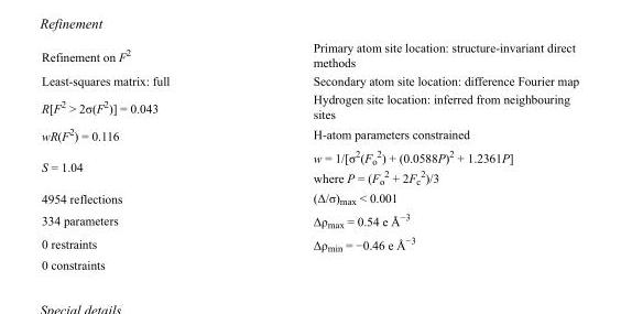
<table><tbody><tr><td>Refinement on F<sup>2</sup></td><td>Primary atom site location: structure-invariant direct methods</td></tr><tr><td>Least-squares matrix: full</td><td>Secondary atom site location: difference Fourier map</td></tr><tr><td>R[F<sup>2</sup> &gt; 2σ(F<sup>2</sup>)] = 0.043</td><td>Hydrogen site location: inferred from neighbouring sites</td></tr><tr><td>wR(F<sup>2</sup>) = 0.116</td><td>H-atom parameters constrained</td></tr><tr><td>S = 1.04</td><td>w = 1/[σ<sup>2</sup>(F<sub>o</sub> <sup>2</sup>) + (0.0588P)<sup>2</sup> + 1.2361P] where P = (F<sub>o</sub> <sup>2</sup> + 2F<sub>c</sub> <sup>2</sup>)/3</td></tr><tr><td>4954 reflections</td><td>(Δ/σ)<sub>max</sub> &lt; 0.001</td></tr><tr><td>334 parameters</td><td>Δρ<sub>max</sub> = 0.54 e Å<sup>−3</sup></td></tr><tr><td>0 restraints</td><td>Δρ<sub>min</sub> = −0.46 e Å<sup>−3</sup></td></tr><tr><td>0 constraints</td><td></td></tr></tbody></table>